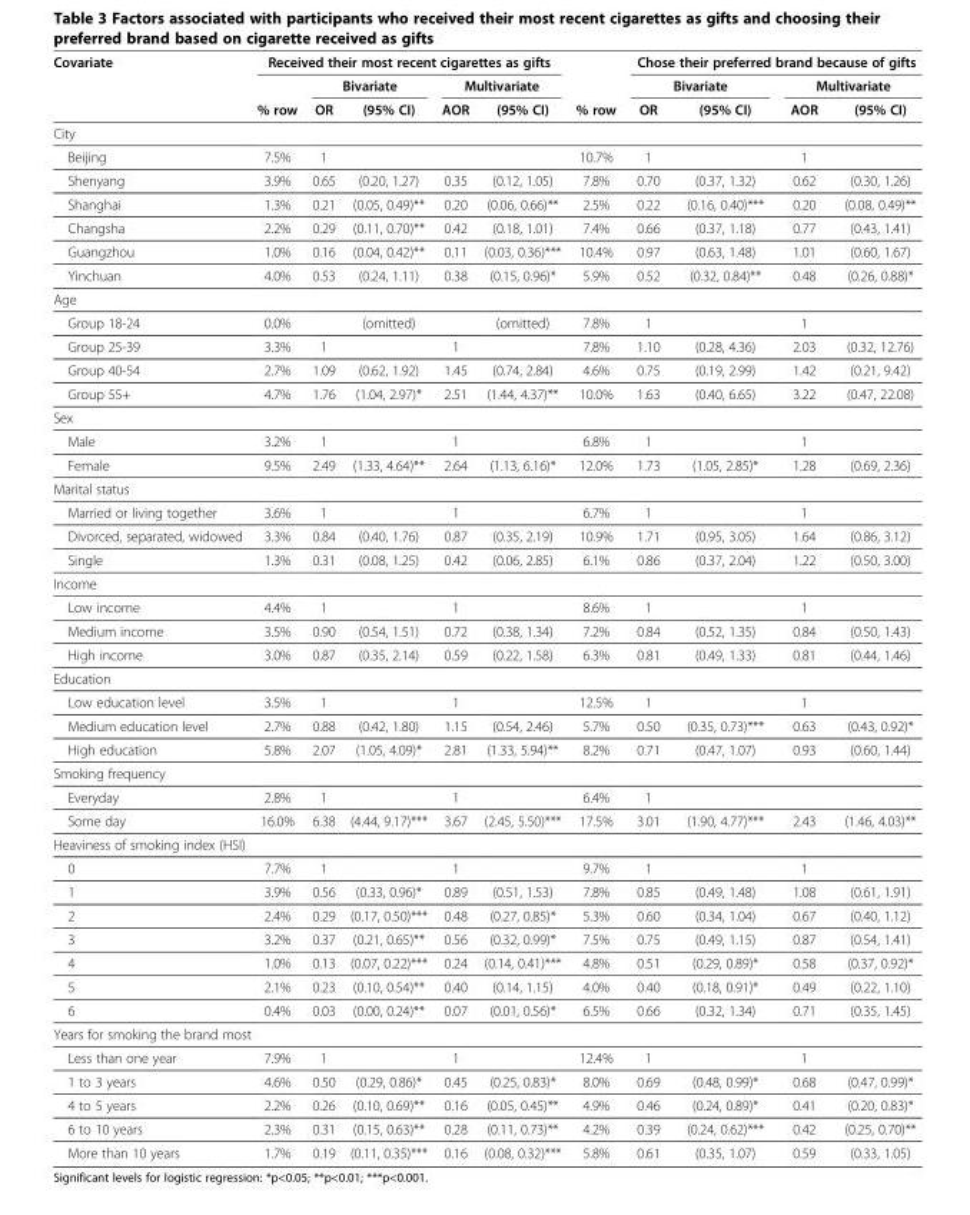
<table><thead><tr><td rowspan="3">Covariate</td><td colspan="5">Received their most recent cigarettes as gifts</td><td rowspan="3">% row</td><td colspan="4">Chose their preferred brand because of gifts</td></tr><tr><td rowspan="2">% row</td><td colspan="2">Bivariate</td><td colspan="2">Multivariate</td><td colspan="2">Bivariate</td><td colspan="2">Multivariate</td></tr><tr><td>OR</td><td>(95% CI)</td><td>AOR</td><td>(95% CI)</td><td>OR</td><td>(95% CI)</td><td>AOR</td><td>(95% CI)</td></tr></thead><tbody><tr><td colspan="11">City</td></tr><tr><td>Beijing</td><td>7.5%</td><td>1</td><td></td><td></td><td></td><td>10.7%</td><td>1</td><td></td><td>1</td><td></td></tr><tr><td>Shenyang</td><td>3.9%</td><td>0.65</td><td>(0.20, 1.27)</td><td>0.35</td><td>(0.12, 1.05)</td><td>7.8%</td><td>0.70</td><td>(0.37, 1.32)</td><td>0.62</td><td>(0.30, 1.26)</td></tr><tr><td>Shanghai</td><td>1.3%</td><td>0.21</td><td>(0.05, 0.49)**</td><td>0.20</td><td>(0.06, 0.66)**</td><td>2.5%</td><td>0.22</td><td>(0.16, 0.40)***</td><td>0.20</td><td>(0.08, 0.49)**</td></tr><tr><td>Changsha</td><td>2.2%</td><td>0.29</td><td>(0.11, 0.70)**</td><td>0.42</td><td>(0.18, 1.01)</td><td>7.4%</td><td>0.66</td><td>(0.37, 1.18)</td><td>0.77</td><td>(0.43, 1.41)</td></tr><tr><td>Guangzhou</td><td>1.0%</td><td>0.16</td><td>(0.04, 0.42)**</td><td>0.11</td><td>(0.03, 0.36)***</td><td>10.4%</td><td>0.97</td><td>(0.63, 1.48)</td><td>1.01</td><td>(0.60, 1.67)</td></tr><tr><td>Yinchuan</td><td>4.0%</td><td>0.53</td><td>(0.24, 1.11)</td><td>0.38</td><td>(0.15, 0.96)*</td><td>5.9%</td><td>0.52</td><td>(0.32, 0.84)**</td><td>0.48</td><td>(0.26, 0.88)*</td></tr><tr><td colspan="11">Age</td></tr><tr><td>Group 18-24</td><td>0.0%</td><td></td><td>(omitted)</td><td></td><td>(omitted)</td><td>7.8%</td><td>1</td><td></td><td>1</td><td></td></tr><tr><td>Group 25-39</td><td>3.3%</td><td>1</td><td></td><td>1</td><td></td><td>7.8%</td><td>1.10</td><td>(0.28, 4.36)</td><td>2.03</td><td>(0.32, 12.76)</td></tr><tr><td>Group 40-54</td><td>2.7%</td><td>1.09</td><td>(0.62, 1.92)</td><td>1.45</td><td>(0.74, 2.84)</td><td>4.6%</td><td>0.75</td><td>(0.19, 2.99)</td><td>1.42</td><td>(0.21, 9.42)</td></tr><tr><td>Group 55+</td><td>4.7%</td><td>1.76</td><td>(1.04, 2.97)*</td><td>2.51</td><td>(1.44, 4.37)**</td><td>10.0%</td><td>1.63</td><td>(0.40, 6.65)</td><td>3.22</td><td>(0.47, 22.08)</td></tr><tr><td colspan="11">Sex</td></tr><tr><td>Male</td><td>3.2%</td><td>1</td><td></td><td>1</td><td></td><td>6.8%</td><td>1</td><td></td><td>1</td><td></td></tr><tr><td>Female</td><td>9.5%</td><td>2.49</td><td>(1.33, 4.64)**</td><td>2.64</td><td>(1.13, 6.16)*</td><td>12.0%</td><td>1.73</td><td>(1.05, 2.85)*</td><td>1.28</td><td>(0.69, 2.36)</td></tr><tr><td colspan="11">Marital status</td></tr><tr><td>Married or living together</td><td>3.6%</td><td>1</td><td></td><td>1</td><td></td><td>6.7%</td><td>1</td><td></td><td>1</td><td></td></tr><tr><td>Divorced, separated, widowed</td><td>3.3%</td><td>0.84</td><td>(0.40, 1.76)</td><td>0.87</td><td>(0.35, 2.19)</td><td>10.9%</td><td>1.71</td><td>(0.95, 3.05)</td><td>1.64</td><td>(0.86, 3.12)</td></tr><tr><td>Single</td><td>1.3%</td><td>0.31</td><td>(0.08, 1.25)</td><td>0.42</td><td>(0.06, 2.85)</td><td>6.1%</td><td>0.86</td><td>(0.37, 2.04)</td><td>1.22</td><td>(0.50, 3.00)</td></tr><tr><td colspan="11">Income</td></tr><tr><td>Low income</td><td>4.4%</td><td>1</td><td></td><td>1</td><td></td><td>8.6%</td><td>1</td><td></td><td>1</td><td></td></tr><tr><td>Medium income</td><td>3.5%</td><td>0.90</td><td>(0.54, 1.51)</td><td>0.72</td><td>(0.38, 1.34)</td><td>7.2%</td><td>0.84</td><td>(0.52, 1.35)</td><td>0.84</td><td>(0.50, 1.43)</td></tr><tr><td>High income</td><td>3.0%</td><td>0.87</td><td>(0.35, 2.14)</td><td>0.59</td><td>(0.22, 1.58)</td><td>6.3%</td><td>0.81</td><td>(0.49, 1.33)</td><td>0.81</td><td>(0.44, 1.46)</td></tr><tr><td colspan="11">Education</td></tr><tr><td>Low education level</td><td>3.5%</td><td>1</td><td></td><td>1</td><td></td><td>12.5%</td><td>1</td><td></td><td>1</td><td></td></tr><tr><td>Medium education level</td><td>2.7%</td><td>0.88</td><td>(0.42, 1.80)</td><td>1.15</td><td>(0.54, 2.46)</td><td>5.7%</td><td>0.50</td><td>(0.35, 0.73)***</td><td>0.63</td><td>(0.43, 0.92)*</td></tr><tr><td>High education</td><td>5.8%</td><td>2.07</td><td>(1.05, 4.09)*</td><td>2.81</td><td>(1.33, 5.94)**</td><td>8.2%</td><td>0.71</td><td>(0.47, 1.07)</td><td>0.93</td><td>(0.60, 1.44)</td></tr><tr><td colspan="11">Smoking frequency</td></tr><tr><td>Everyday</td><td>2.8%</td><td>1</td><td></td><td>1</td><td></td><td>6.4%</td><td>1</td><td></td><td></td><td></td></tr><tr><td>Some day</td><td>16.0%</td><td>6.38</td><td>(4.44, 9.17)***</td><td>3.67</td><td>(2.45, 5.50)***</td><td>17.5%</td><td>3.01</td><td>(1.90, 4.77)***</td><td>2.43</td><td>(1.46, 4.03)**</td></tr><tr><td colspan="11">Heaviness of smoking index (HSI)</td></tr><tr><td>0</td><td>7.7%</td><td>1</td><td></td><td>1</td><td></td><td>9.7%</td><td>1</td><td></td><td>1</td><td></td></tr><tr><td>1</td><td>3.9%</td><td>0.56</td><td>(0.33, 0.96)*</td><td>0.89</td><td>(0.51, 1.53)</td><td>7.8%</td><td>0.85</td><td>(0.49, 1.48)</td><td>1.08</td><td>(0.61, 1.91)</td></tr><tr><td>2</td><td>2.4%</td><td>0.29</td><td>(0.17, 0.50)***</td><td>0.48</td><td>(0.27, 0.85)*</td><td>5.3%</td><td>0.60</td><td>(0.34, 1.04)</td><td>0.67</td><td>(0.40, 1.12)</td></tr><tr><td>3</td><td>3.2%</td><td>0.37</td><td>(0.21, 0.65)**</td><td>0.56</td><td>(0.32, 0.99)*</td><td>7.5%</td><td>0.75</td><td>(0.49, 1.15)</td><td>0.87</td><td>(0.54, 1.41)</td></tr><tr><td>4</td><td>1.0%</td><td>0.13</td><td>(0.07, 0.22)***</td><td>0.24</td><td>(0.14, 0.41)***</td><td>4.8%</td><td>0.51</td><td>(0.29, 0.89)*</td><td>0.58</td><td>(0.37, 0.92)*</td></tr><tr><td>5</td><td>2.1%</td><td>0.23</td><td>(0.10, 0.54)**</td><td>0.40</td><td>(0.14, 1.15)</td><td>4.0%</td><td>0.40</td><td>(0.18, 0.91)*</td><td>0.49</td><td>(0.22, 1.10)</td></tr><tr><td>6</td><td>0.4%</td><td>0.03</td><td>(0.00, 0.24)**</td><td>0.07</td><td>(0.01, 0.56)*</td><td>6.5%</td><td>0.66</td><td>(0.32, 1.34)</td><td>0.71</td><td>(0.35, 1.45)</td></tr><tr><td colspan="11">Years for smoking the brand most</td></tr><tr><td>Less than one year</td><td>7.9%</td><td>1</td><td></td><td>1</td><td></td><td>12.4%</td><td>1</td><td></td><td>1</td><td></td></tr><tr><td>1 to 3 years</td><td>4.6%</td><td>0.50</td><td>(0.29, 0.86)*</td><td>0.45</td><td>(0.25, 0.83)*</td><td>8.0%</td><td>0.69</td><td>(0.48, 0.99)*</td><td>0.68</td><td>(0.47, 0.99)*</td></tr><tr><td>4 to 5 years</td><td>2.2%</td><td>0.26</td><td>(0.10, 0.69)**</td><td>0.16</td><td>(0.05, 0.45)**</td><td>4.9%</td><td>0.46</td><td>(0.24, 0.89)*</td><td>0.41</td><td>(0.20, 0.83)*</td></tr><tr><td>6 to 10 years</td><td>2.3%</td><td>0.31</td><td>(0.15, 0.63)**</td><td>0.28</td><td>(0.11, 0.73)**</td><td>4.2%</td><td>0.39</td><td>(0.24, 0.62)***</td><td>0.42</td><td>(0.25, 0.70)**</td></tr><tr><td>More than 10 years</td><td>1.7%</td><td>0.19</td><td>(0.11, 0.35)***</td><td>0.16</td><td>(0.08, 0.32)***</td><td>5.8%</td><td>0.61</td><td>(0.35, 1.07)</td><td>0.59</td><td>(0.33, 1.05)</td></tr></tbody></table>